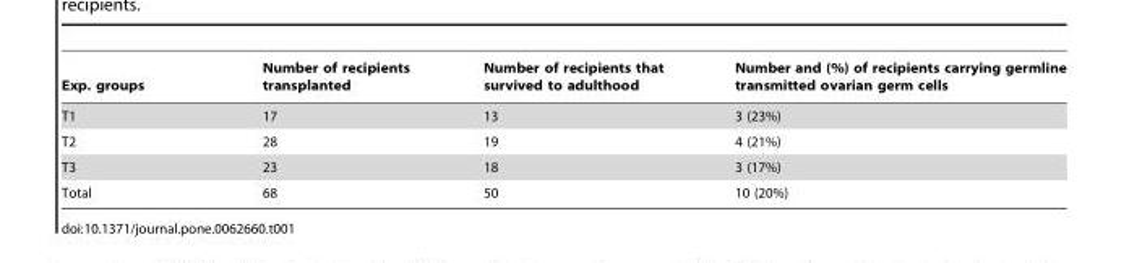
<table><thead><tr><td>Exp. groups</td><td>Number of recipients transplanted</td><td>Number of recipients that survived to adulthood</td><td>Number and (%) of recipients carrying germline transmitted ovarian germ cells</td></tr></thead><tbody><tr><td>T1</td><td>17</td><td>13</td><td>3 (23%)</td></tr><tr><td>T2</td><td>28</td><td>19</td><td>4 (21%)</td></tr><tr><td>T3</td><td>23</td><td>18</td><td>3 (17%)</td></tr><tr><td>Total</td><td>68</td><td>50</td><td>10 (20%)</td></tr></tbody></table>